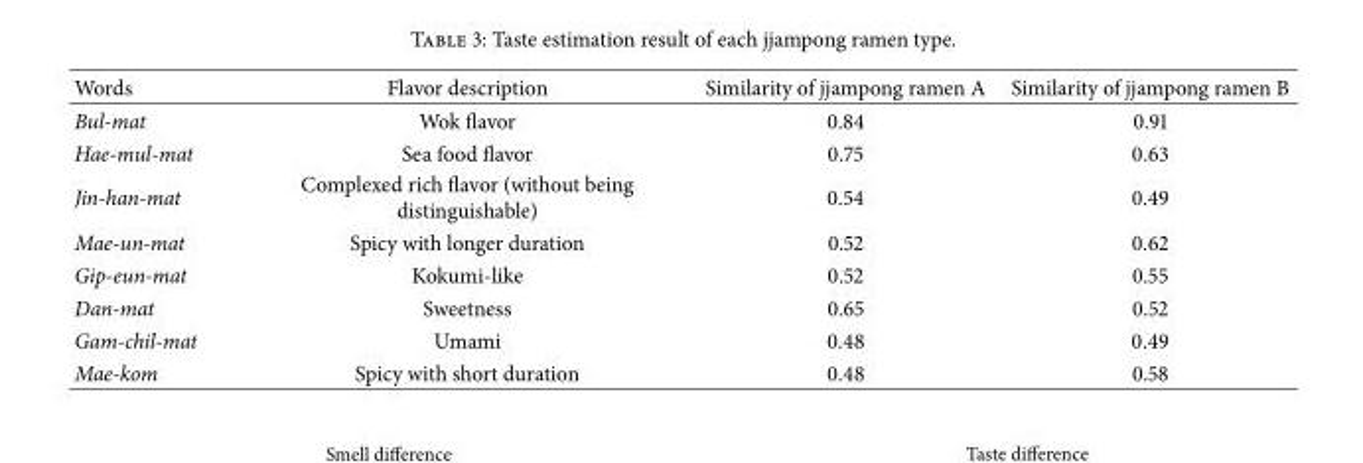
<table><thead><tr><td>Words</td><td>Flavor description</td><td>Similarity of jjampong ramen A</td><td>Similarity of jjampong ramen B</td></tr></thead><tbody><tr><td>Bul-mat</td><td>Wok flavor</td><td>0.84</td><td>0.91</td></tr><tr><td>Hae-mul-mat</td><td>Sea food flavor</td><td>0.75</td><td>0.63</td></tr><tr><td>Jin-han-mat</td><td>Complexed rich flavor (without being distinguishable)</td><td>0.54</td><td>0.49</td></tr><tr><td>Mae-un-mat</td><td>Spicy with longer duration</td><td>0.52</td><td>0.62</td></tr><tr><td>Gip-eun-mat</td><td>Kokumi-like</td><td>0.52</td><td>0.55</td></tr><tr><td>Dan-mat</td><td>Sweetness</td><td>0.65</td><td>0.52</td></tr><tr><td>Gam-chil-mat</td><td>Umami</td><td>0.48</td><td>0.49</td></tr><tr><td>Mae-kom</td><td>Spicy with short duration</td><td>0.48</td><td>0.58</td></tr></tbody></table>